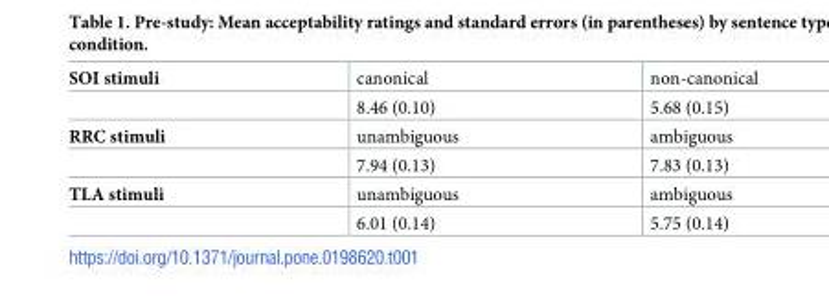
<table><tbody><tr><td rowspan="2">SOI stimuli</td><td>canonical</td><td>non-canonical</td></tr><tr><td>8.46 (0.10)</td><td>5.68 (0.15)</td></tr><tr><td rowspan="2">RRC stimuli</td><td>unambiguous</td><td>ambiguous</td></tr><tr><td>7.94 (0.13)</td><td>7.83 (0.13)</td></tr><tr><td rowspan="2">TLA stimuli</td><td>unambiguous</td><td>ambiguous</td></tr><tr><td>6.01 (0.14)</td><td>5.75 (0.14)</td></tr></tbody></table>